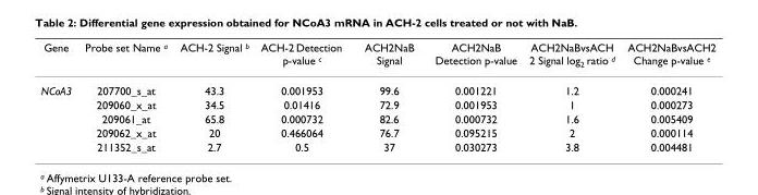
<table><thead><tr><td>Gene</td><td>Probe set Name <sup>a</sup></td><td>ACH-2 Signal <sup>b</sup></td><td>ACH-2 Detection p-value <sup>c</sup></td><td>ACH2NaB Signal</td><td>ACH2NaB Detection p-value</td><td>ACH2NaBvsACH 2 Signal log<sub>2</sub> ratio <sup>d</sup></td><td>ACH2NaBvsACH2 Change p-value <sup>e</sup></td></tr></thead><tbody><tr><td rowspan="5">NCoA3</td><td>207700_s_at</td><td>43.3</td><td>0.001953</td><td>99.6</td><td>0.001221</td><td>1.2</td><td>0.000241</td></tr><tr><td>209060_x_at</td><td>34.5</td><td>0.01416</td><td>72.9</td><td>0.001953</td><td>1</td><td>0.000273</td></tr><tr><td>209061_at</td><td>65.8</td><td>0.000732</td><td>82.6</td><td>0.000732</td><td>1.6</td><td>0.005409</td></tr><tr><td>209062_x_at</td><td>20</td><td>0.466064</td><td>76.7</td><td>0.095215</td><td>2</td><td>0.000114</td></tr><tr><td>211352_s_at</td><td>2.7</td><td>0.5</td><td>37</td><td>0.030273</td><td>3.8</td><td>0.004481</td></tr></tbody></table>